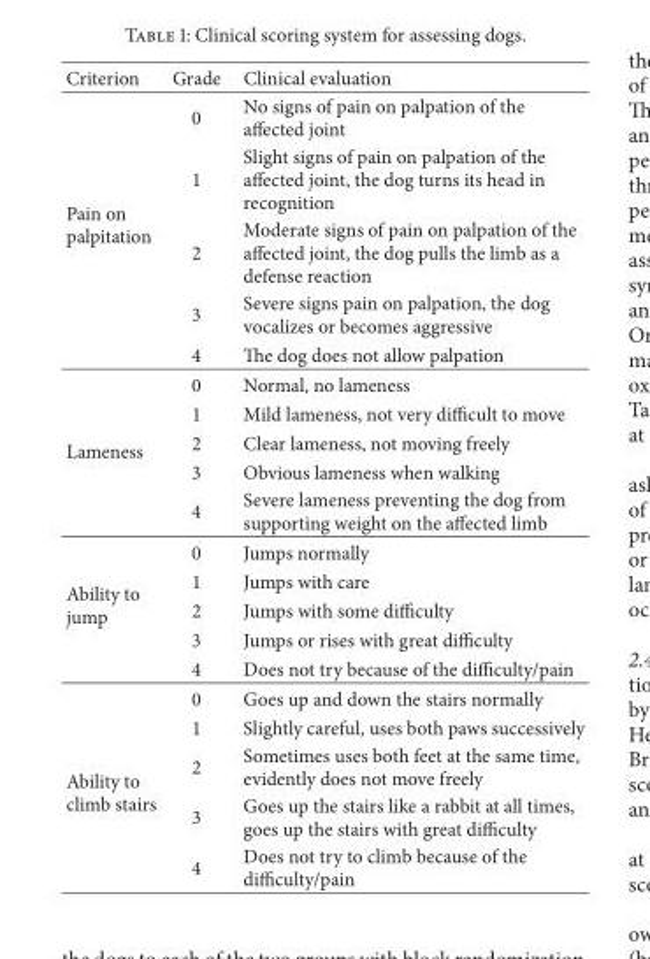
<table><thead><tr><td>Criterion</td><td>Grade</td><td>Clinical evaluation</td></tr></thead><tbody><tr><td rowspan="5">Pain on palpitation</td><td>0</td><td>No signs of pain on palpation of the affected joint</td></tr><tr><td>1</td><td>Slight signs of pain on palpation of the affected joint, the dog turns its head in recognition</td></tr><tr><td>2</td><td>Moderate signs of pain on palpation of the affected joint, the dog pulls the limb as a defense reaction</td></tr><tr><td>3</td><td>Severe signs pain on palpation, the dog vocalizes or becomes aggressive</td></tr><tr><td>4</td><td>The dog does not allow palpation</td></tr><tr><td rowspan="5">Lameness</td><td>0</td><td>Normal, no lameness</td></tr><tr><td>1</td><td>Mild lameness, not very difficult to move</td></tr><tr><td>2</td><td>Clear lameness, not moving freely</td></tr><tr><td>3</td><td>Obvious lameness when walking</td></tr><tr><td>4</td><td>Severe lameness preventing the dog from supporting weight on the affected limb</td></tr><tr><td rowspan="5">Ability to jump</td><td>0</td><td>Jumps normally</td></tr><tr><td>1</td><td>Jumps with care</td></tr><tr><td>2</td><td>Jumps with some difficulty</td></tr><tr><td>3</td><td>Jumps or rises with great difficulty</td></tr><tr><td>4</td><td>Does not try because of the difficulty/pain</td></tr><tr><td rowspan="5">Ability to climb stairs</td><td>0</td><td>Goes up and down the stairs normally</td></tr><tr><td>1</td><td>Slightly careful, uses both paws successively</td></tr><tr><td>2</td><td>Sometimes uses both feet at the same time, evidently does not move freely</td></tr><tr><td>3</td><td>Goes up the stairs like a rabbit at all times, goes up the stairs with great difficulty</td></tr><tr><td>4</td><td>Does not try to climb because of the difficulty/pain</td></tr></tbody></table>